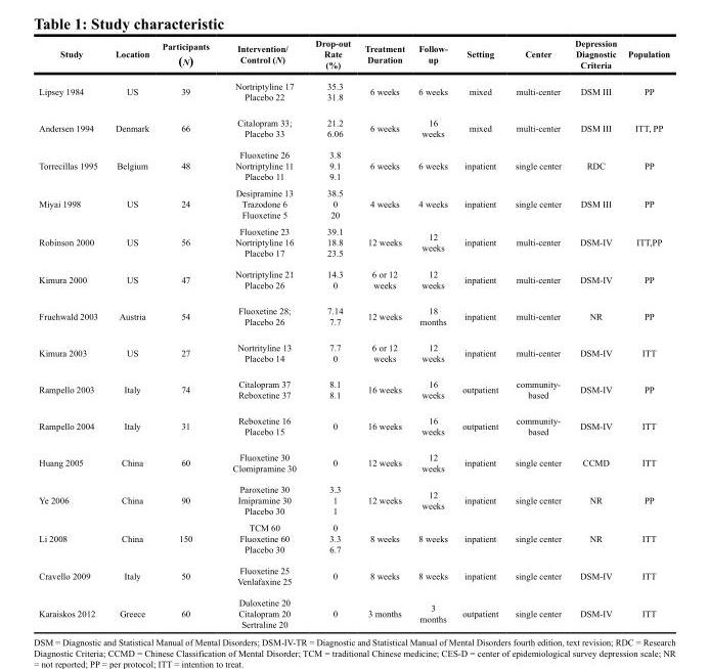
<table><thead><tr><td>Study</td><td>Location</td><td>Participants (N)</td><td>Intervention/ Control (N)</td><td>Drop-out Rate (%)</td><td>Treatment Duration</td><td>Follow- up</td><td>Setting</td><td>Center</td><td>Depression Diagnostic Criteria</td><td>Population</td></tr></thead><tbody><tr><td>Lipsey 1984</td><td>US</td><td>39</td><td>Nortriptyline 17 Placebo 22</td><td>35.3 31.8</td><td>6 weeks</td><td>6 weeks</td><td>mixed</td><td>multi-center</td><td>DSM III</td><td>PP</td></tr><tr><td>Andersen 1994</td><td>Denmark</td><td>66</td><td>Citalopram 33; Placebo 33</td><td>21.2 6.06</td><td>6 weeks</td><td>16 weeks</td><td>mixed</td><td>multi-center</td><td>DSM III</td><td>ITT, PP</td></tr><tr><td>Torrecillas 1995</td><td>Belgium</td><td>48</td><td>Fluoxetine 26 Nortriptyline 11 Placebo 11</td><td>3.8 9.1 9.1</td><td>6 weeks</td><td>6 weeks</td><td>inpatient</td><td>single center</td><td>RDC</td><td>PP</td></tr><tr><td>Miyai 1998</td><td>US</td><td>24</td><td>Desipramine 13 Trazodone 6 Fluoxetine 5</td><td>38.5 0 20</td><td>4 weeks</td><td>4 weeks</td><td>inpatient</td><td>single center</td><td>DSM III</td><td>PP</td></tr><tr><td>Robinson 2000</td><td>US</td><td>56</td><td>Fluoxetine 23 Nortriptyline 16 Placebo 17</td><td>39.1 18.8 23.5</td><td>12 weeks</td><td>12 weeks</td><td>inpatient</td><td>multi-center</td><td>DSM-IV</td><td>ITT,PP</td></tr><tr><td>Kimura 2000</td><td>US</td><td>47</td><td>Nortriptyline 21 Placebo 26</td><td>14.3 0</td><td>6 or 12 weeks</td><td>12 weeks</td><td>inpatient</td><td>multi-center</td><td>DSM-IV</td><td>PP</td></tr><tr><td>Fruehwald 2003</td><td>Austria</td><td>54</td><td>Fluoxetine 28; Placebo 26</td><td>7.14 7.7</td><td>12 weeks</td><td>18 months</td><td>inpatient</td><td>multi-center</td><td>NR</td><td>PP</td></tr><tr><td>Kimura 2003</td><td>US</td><td>27</td><td>Nortrityline 13 Placebo 14</td><td>7.7 0</td><td>6 or 12 weeks</td><td>12 weeks</td><td>inpatient</td><td>multi-center</td><td>DSM-IV</td><td>ITT</td></tr><tr><td>Rampello 2003</td><td>Italy</td><td>74</td><td>Citalopram 37 Reboxetine 37</td><td>8.1 8.1</td><td>16 weeks</td><td>16 weeks</td><td>outpatient</td><td>community- based</td><td>DSM-IV</td><td>PP</td></tr><tr><td>Rampello 2004</td><td>Italy</td><td>31</td><td>Reboxetine 16 Placebo 15</td><td>0</td><td>16 weeks</td><td>16 weeks</td><td>outpatient</td><td>community- based</td><td>DSM-IV</td><td>ITT</td></tr><tr><td>Huang 2005</td><td>China</td><td>60</td><td>Fluoxetine 30 Clomipramine 30</td><td>0</td><td>12 weeks</td><td>12 weeks</td><td>inpatient</td><td>single center</td><td>CCMD</td><td>ITT</td></tr><tr><td>Ye 2006</td><td>China</td><td>90</td><td>Paroxetine 30 Imipramine 30 Placebo 30</td><td>3.3 1 1</td><td>12 weeks</td><td>12 weeks</td><td>inpatient</td><td>single center</td><td>NR</td><td>PP</td></tr><tr><td>Li 2008</td><td>China</td><td>150</td><td>TCM 60 Fluoxetine 60 Placebo 30</td><td>0 3.3 6.7</td><td>8 weeks</td><td>8 weeks</td><td>inpatient</td><td>single center</td><td>NR</td><td>ITT</td></tr><tr><td>Cravello 2009</td><td>Italy</td><td>50</td><td>Fluoxetine 25 Venlafaxine 25</td><td>0</td><td>8 weeks</td><td>8 weeks</td><td>inpatient</td><td>single center</td><td>DSM-IV</td><td>ITT</td></tr><tr><td>Karaiskos 2012</td><td>Greece</td><td>60</td><td>Duloxetine 20 Citalopram 20 Sertraline 20</td><td>0</td><td>3 months</td><td>3 months</td><td>outpatient</td><td>single center</td><td>DSM-IV</td><td>ITT</td></tr></tbody></table>